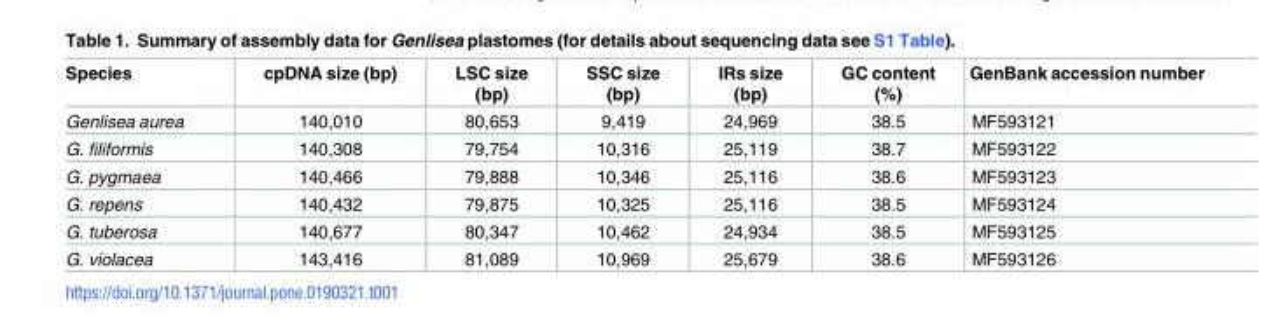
<table><thead><tr><td>Species</td><td>cpDNA size (bp)</td><td>LSC size (bp)</td><td>SSC size (bp)</td><td>IRs size (bp)</td><td>GC content (%)</td><td>GenBank accession number</td></tr></thead><tbody><tr><td>Genlisea aurea</td><td>140,010</td><td>80,653</td><td>9,419</td><td>24,969</td><td>38.5</td><td>MF593121</td></tr><tr><td>G. filiformis</td><td>140,308</td><td>79,754</td><td>10,316</td><td>25,119</td><td>38.7</td><td>MF593122</td></tr><tr><td>G. pygmaea</td><td>140,466</td><td>79,888</td><td>10,346</td><td>25,116</td><td>38.6</td><td>MF593123</td></tr><tr><td>G. repens</td><td>140,432</td><td>79,875</td><td>10,325</td><td>25,116</td><td>38.5</td><td>MF593124</td></tr><tr><td>G. tuberosa</td><td>140,677</td><td>80,347</td><td>10,462</td><td>24,934</td><td>38.5</td><td>MF593125</td></tr><tr><td>G. violacea</td><td>143,416</td><td>81,089</td><td>10,969</td><td>25,679</td><td>38.6</td><td>MF593126</td></tr></tbody></table>